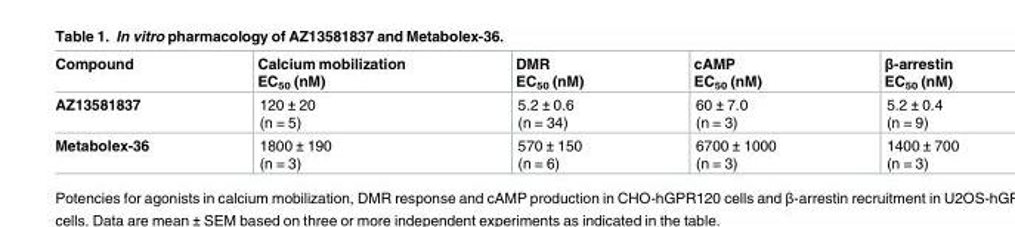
<table><thead><tr><td>Compound</td><td>Calcium mobilization EC<sub>50</sub> (nM)</td><td>DMR EC<sub>50</sub> (nM)</td><td>cAMP EC<sub>50</sub> (nM)</td><td>β-arrestin EC<sub>50</sub> (nM)</td></tr></thead><tbody><tr><td>AZ13581837</td><td>120 ± 20 (n = 5)</td><td>5.2 ± 0.6 (n = 34)</td><td>60 ± 7.0 (n = 3)</td><td>5.2 ± 0.4 (n = 9)</td></tr><tr><td>Metabolex-36</td><td>1800 ± 190 (n = 3)</td><td>570 ± 150 (n = 6)</td><td>6700 ± 1000 (n = 3)</td><td>1400 ± 700 (n = 3)</td></tr></tbody></table>